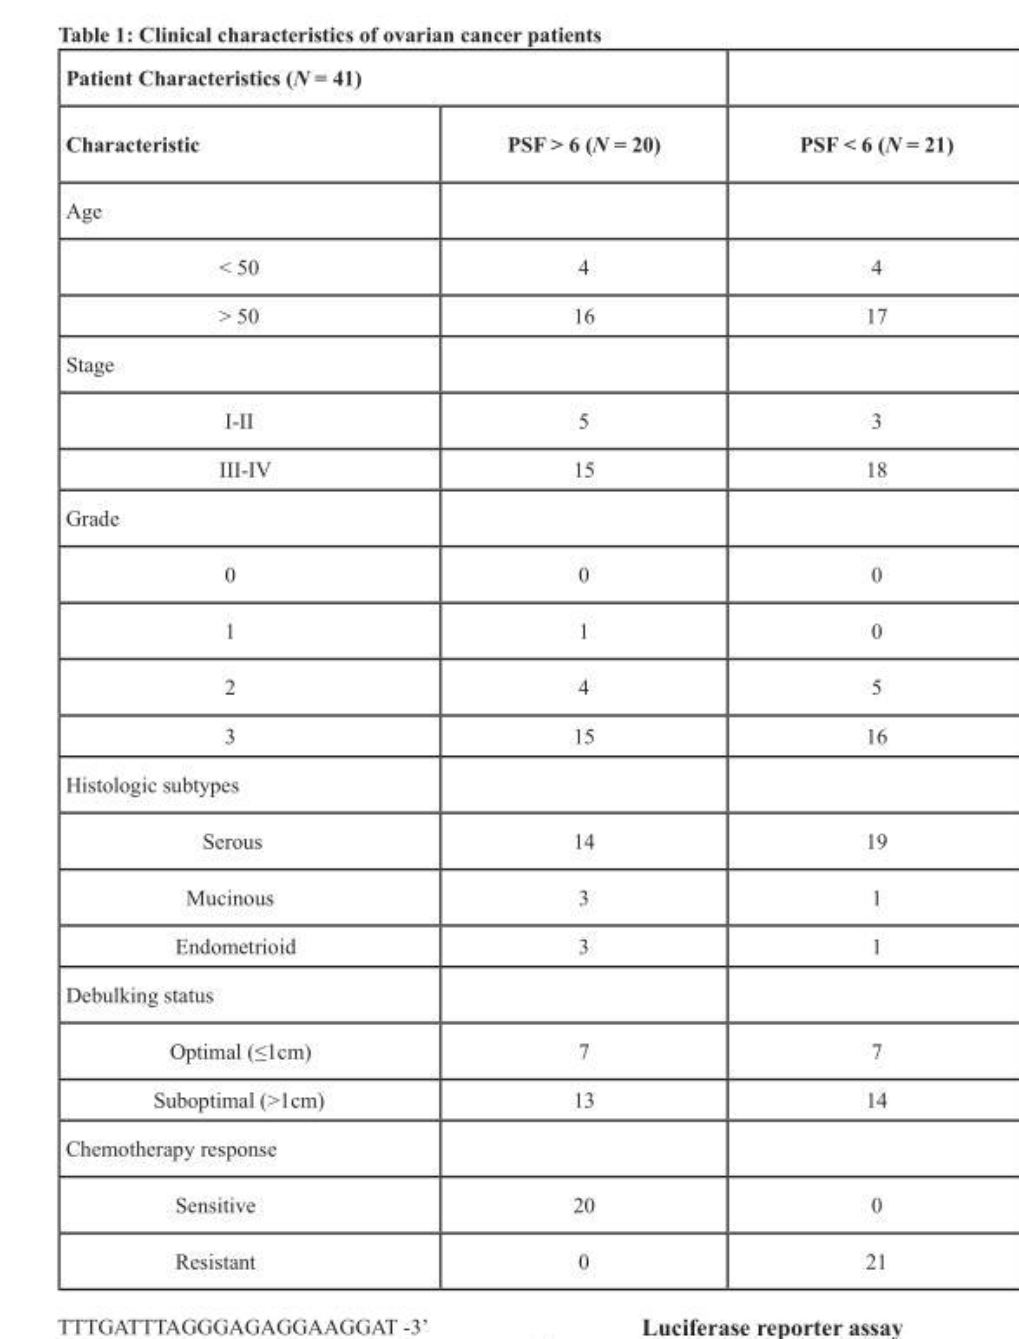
<table><thead><tr><td colspan="2">Patient Characteristics (N = 41)</td><td rowspan="2">PSF &lt; 6 (N = 21)</td></tr><tr><td>Characteristic</td><td>PSF &gt; 6 (N = 20)</td></tr></thead><tbody><tr><td colspan="3">Age</td></tr><tr><td>&lt; 50</td><td>4</td><td>4</td></tr><tr><td>&gt; 50</td><td>16</td><td>17</td></tr><tr><td colspan="3">Stage</td></tr><tr><td>I-II</td><td>5</td><td>3</td></tr><tr><td>III-IV</td><td>15</td><td>18</td></tr><tr><td colspan="3">Grade</td></tr><tr><td>0</td><td>0</td><td>0</td></tr><tr><td>1</td><td>1</td><td>0</td></tr><tr><td>2</td><td>4</td><td>5</td></tr><tr><td>3</td><td>15</td><td>16</td></tr><tr><td colspan="3">Histologic subtypes</td></tr><tr><td>Serous</td><td>14</td><td>19</td></tr><tr><td>Mucinous</td><td>3</td><td>1</td></tr><tr><td>Endometrioid</td><td>3</td><td>1</td></tr><tr><td colspan="3">Debulking status</td></tr><tr><td>Optimal (≤1cm)</td><td>7</td><td>7</td></tr><tr><td>Suboptimal (&gt;1cm)</td><td>13</td><td>14</td></tr><tr><td colspan="3">Chemotherapy response</td></tr><tr><td>Sensitive</td><td>20</td><td>0</td></tr><tr><td>Resistant</td><td>0</td><td>21</td></tr></tbody></table>